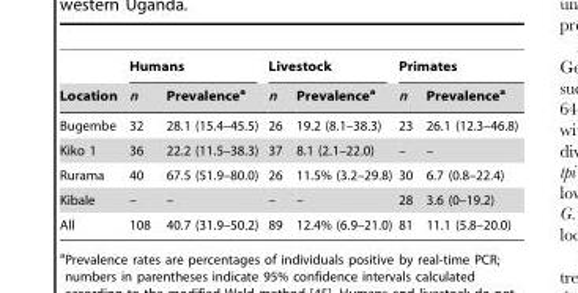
<table><thead><tr><td rowspan="2">Location</td><td colspan="2">Humans</td><td colspan="2">Livestock</td><td colspan="2">Primates</td></tr><tr><td>n</td><td>Prevalence<sup>a</sup></td><td>n</td><td>Prevalence<sup>a</sup></td><td>n</td><td>Prevalence<sup>a</sup></td></tr></thead><tbody><tr><td>Bugembe</td><td>32</td><td>28.1 (15.4–45.5)</td><td>26</td><td>19.2 (8.1–38.3)</td><td>23</td><td>26.1 (12.3–46.8)</td></tr><tr><td>Kiko 1</td><td>36</td><td>22.2 (11.5–38.3)</td><td>37</td><td>8.1 (2.1–22.0)</td><td>–</td><td>–</td></tr><tr><td>Rurama</td><td>40</td><td>67.5 (51.9–80.0)</td><td>26</td><td>11.5% (3.2–29.8)</td><td>30</td><td>6.7 (0.8–22.4)</td></tr><tr><td>Kibale</td><td>–</td><td>–</td><td>–</td><td>–</td><td>28</td><td>3.6 (0–19.2)</td></tr><tr><td>All</td><td>108</td><td>40.7 (31.9–50.2)</td><td>89</td><td>12.4% (6.9–21.0)</td><td>81</td><td>11.1 (5.8–20.0)</td></tr></tbody></table>